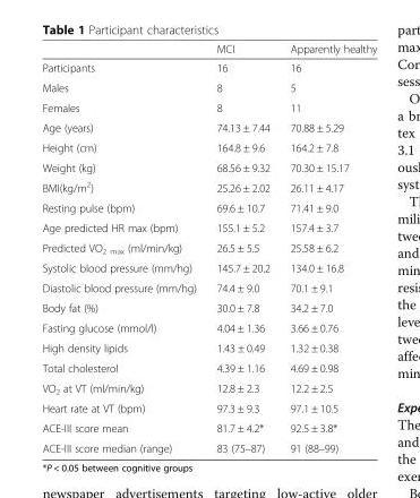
<table><thead><tr><td></td><td>MCI</td><td>Apparently healthy</td></tr></thead><tbody><tr><td>Participants</td><td>16</td><td>16</td></tr><tr><td>Males</td><td>8</td><td>5</td></tr><tr><td>Females</td><td>8</td><td>11</td></tr><tr><td>Age (years)</td><td>74.13 ± 7.44</td><td>70.88 ± 5.29</td></tr><tr><td>Height (cm)</td><td>164.8 ± 9.6</td><td>164.2 ± 7.8</td></tr><tr><td>Weight (kg)</td><td>68.56 ± 9.32</td><td>70.30 ± 15.17</td></tr><tr><td>BMI(kg/m<sup>2</sup>)</td><td>25.26 ± 2.02</td><td>26.11 ± 4.17</td></tr><tr><td>Resting pulse (bpm)</td><td>69.6 ± 10.7</td><td>71.41 ± 9.0</td></tr><tr><td>Age predicted HR max (bpm)</td><td>155.1 ± 5.2</td><td>157.4 ± 3.7</td></tr><tr><td>Predicted VO<sub>2 max</sub> (ml/min/kg)</td><td>26.5 ± 5.5</td><td>25.58 ± 6.2</td></tr><tr><td>Systolic blood pressure (mm/hg)</td><td>145.7 ± 20.2</td><td>134.0 ± 16.8</td></tr><tr><td>Diastolic blood pressure (mm/hg)</td><td>74.4 ± 9.0</td><td>70.1 ± 9.1</td></tr><tr><td>Body fat (%)</td><td>30.0 ± 7.8</td><td>34.2 ± 7.0</td></tr><tr><td>Fasting glucose (mmol/l)</td><td>4.04 ± 1.36</td><td>3.66 ± 0.76</td></tr><tr><td>High density lipids</td><td>1.43 ± 0.49</td><td>1.32 ± 0.38</td></tr><tr><td>Total cholesterol</td><td>4.39 ± 1.16</td><td>4.69 ± 0.98</td></tr><tr><td>VO<sub>2</sub> at VT (ml/min/kg)</td><td>12.8 ± 2.3</td><td>12.2 ± 2.5</td></tr><tr><td>Heart rate at VT (bpm)</td><td>97.3 ± 9.3</td><td>97.1 ± 10.5</td></tr><tr><td>ACE-III score mean</td><td>81.7 ± 4.2*</td><td>92.5 ± 3.8*</td></tr><tr><td>ACE-III score median (range)</td><td>83 (75–87)</td><td>91 (88–99)</td></tr></tbody></table>